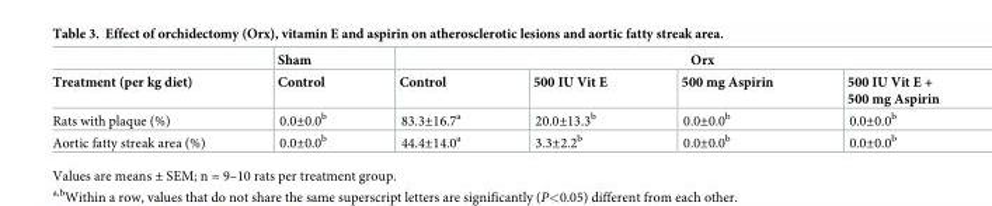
<table><thead><tr><td rowspan="2">Treatment (per kg diet)</td><td rowspan="2">Sham Control</td><td colspan="4">Orx</td></tr><tr><td>Control</td><td>500 IU Vit E</td><td>500 mg Aspirin</td><td>500 IU Vit E + 500 mg Aspirin</td></tr></thead><tbody><tr><td>Rats with plaque (%)</td><td>0.0±0.0<sup>b</sup></td><td>83.3±16.7<sup>a</sup></td><td>20.0±13.3<sup>b</sup></td><td>0.0±0.0<sup>b</sup></td><td>0.0±0.0<sup>b</sup></td></tr><tr><td>Aortic fatty streak area (%)</td><td>0.0±0.0<sup>b</sup></td><td>44.4±14.0<sup>a</sup></td><td>3.3±2.2<sup>b</sup></td><td>0.0±0.0<sup>b</sup></td><td>0.0±0.0<sup>b</sup></td></tr></tbody></table>